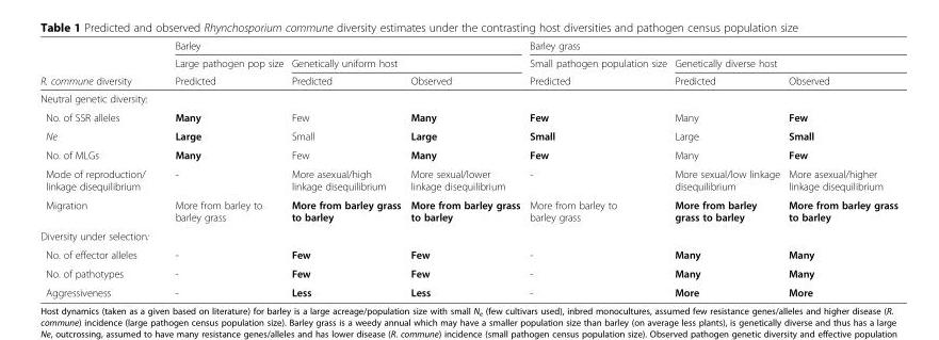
<table><thead><tr><td rowspan="3">R. commune diversity</td><td colspan="3">Barley</td><td colspan="3">Barley grass</td></tr><tr><td rowspan="2">Large pathogen pop size Predicted</td><td rowspan="2">Genetically uniform host Predicted</td><td rowspan="2">Observed</td><td rowspan="2">Small pathogen population size Predicted</td><td rowspan="2">Genetically diverse host Predicted</td><td rowspan="2">Observed</td></tr><tr></tr></thead><tbody><tr><td colspan="7">Neutral genetic diversity:</td></tr><tr><td>No. of SSR alleles</td><td>Many</td><td>Few</td><td>Many</td><td>Few</td><td>Many</td><td>Few</td></tr><tr><td>Ne</td><td>Large</td><td>Small</td><td>Large</td><td>Small</td><td>Large</td><td>Small</td></tr><tr><td>No. of MLGs</td><td>Many</td><td>Few</td><td>Many</td><td>Few</td><td>Many</td><td>Few</td></tr><tr><td>Mode of reproduction/ linkage disequilibrium</td><td>-</td><td>More asexual/high linkage disequilibrium</td><td>More sexual/lower linkage disequilibrium</td><td>-</td><td>More sexual/low linkage disequilibrium</td><td>More asexual/higher linkage disequilibrium</td></tr><tr><td>Migration</td><td>More from barley to barley grass</td><td>More from barley grass to barley</td><td>More from barley grass to barley</td><td>More from barley to barley grass</td><td>More from barley grass to barley</td><td>More from barley grass to barley</td></tr><tr><td colspan="7">Diversity under selection:</td></tr><tr><td>No. of effector alleles</td><td>-</td><td>Few</td><td>Few</td><td>-</td><td>Many</td><td>Many</td></tr><tr><td>No. of pathotypes</td><td>-</td><td>Few</td><td>Few</td><td>-</td><td>Many</td><td>Many</td></tr><tr><td>Aggressiveness</td><td>-</td><td>Less</td><td>Less</td><td>-</td><td>More</td><td>More</td></tr></tbody></table>